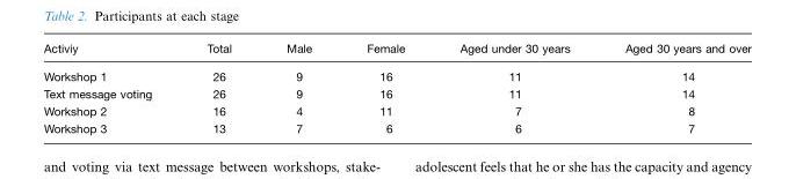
<table><thead><tr><td>Activiy</td><td>Total</td><td>Male</td><td>Female</td><td>Aged under 30 years</td><td>Aged 30 years and over</td></tr></thead><tbody><tr><td>Workshop 1</td><td>26</td><td>9</td><td>16</td><td>11</td><td>14</td></tr><tr><td>Text message voting</td><td>26</td><td>9</td><td>16</td><td>11</td><td>14</td></tr><tr><td>Workshop 2</td><td>16</td><td>4</td><td>11</td><td>7</td><td>8</td></tr><tr><td>Workshop 3</td><td>13</td><td>7</td><td>6</td><td>6</td><td>7</td></tr></tbody></table>